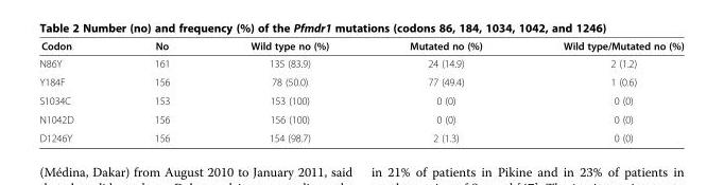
<table><thead><tr><td>Codon</td><td>No</td><td>Wild type no (%)</td><td>Mutated no (%)</td><td>Wild type/Mutated no (%)</td></tr></thead><tbody><tr><td>N86Y</td><td>161</td><td>135 (83.9)</td><td>24 (14.9)</td><td>2 (1.2)</td></tr><tr><td>Y184F</td><td>156</td><td>78 (50.0)</td><td>77 (49.4)</td><td>1 (0.6)</td></tr><tr><td>S1034C</td><td>153</td><td>153 (100)</td><td>0 (0)</td><td>0 (0)</td></tr><tr><td>N1042D</td><td>156</td><td>156 (100)</td><td>0 (0)</td><td>0 (0)</td></tr><tr><td>D1246Y</td><td>156</td><td>154 (98.7)</td><td>2 (1.3)</td><td>0 (0)</td></tr></tbody></table>